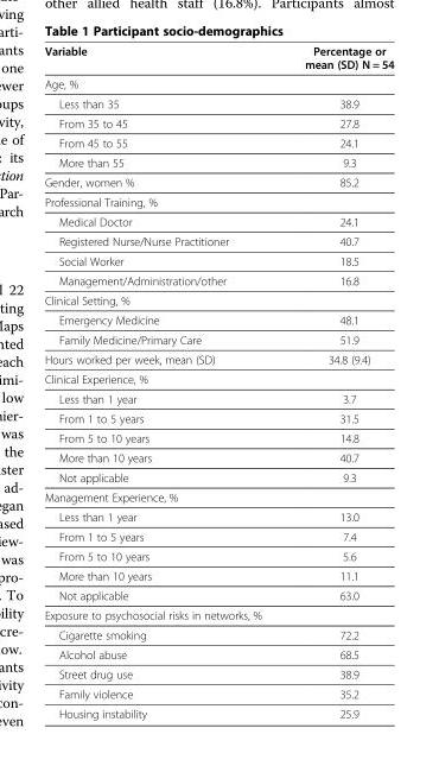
<table><thead><tr><td>Variable</td><td>Percentage or mean (SD) N = 54</td></tr></thead><tbody><tr><td colspan="2">Age, %</td></tr><tr><td>Less than 35</td><td>38.9</td></tr><tr><td>From 35 to 45</td><td>27.8</td></tr><tr><td>From 45 to 55</td><td>24.1</td></tr><tr><td>More than 55</td><td>9.3</td></tr><tr><td>Gender, women %</td><td>85.2</td></tr><tr><td colspan="2">Professional Training, %</td></tr><tr><td>Medical Doctor</td><td>24.1</td></tr><tr><td>Registered Nurse/Nurse Practitioner</td><td>40.7</td></tr><tr><td>Social Worker</td><td>18.5</td></tr><tr><td>Management/Administration/other</td><td>16.8</td></tr><tr><td colspan="2">Clinical Setting, %</td></tr><tr><td>Emergency Medicine</td><td>48.1</td></tr><tr><td>Family Medicine/Primary Care</td><td>51.9</td></tr><tr><td>Hours worked per week, mean (SD)</td><td>34.8 (9.4)</td></tr><tr><td colspan="2">Clinical Experience, %</td></tr><tr><td>Less than 1 year</td><td>3.7</td></tr><tr><td>From 1 to 5 years</td><td>31.5</td></tr><tr><td>From 5 to 10 years</td><td>14.8</td></tr><tr><td>More than 10 years</td><td>40.7</td></tr><tr><td>Not applicable</td><td>9.3</td></tr><tr><td colspan="2">Management Experience, %</td></tr><tr><td>Less than 1 year</td><td>13.0</td></tr><tr><td>From 1 to 5 years</td><td>7.4</td></tr><tr><td>From 5 to 10 years</td><td>5.6</td></tr><tr><td>More than 10 years</td><td>11.1</td></tr><tr><td>Not applicable</td><td>63.0</td></tr><tr><td colspan="2">Exposure to psychosocial risks in networks, %</td></tr><tr><td>Cigarette smoking</td><td>72.2</td></tr><tr><td>Alcohol abuse</td><td>68.5</td></tr><tr><td>Street drug use</td><td>38.9</td></tr><tr><td>Family violence</td><td>35.2</td></tr><tr><td>Housing instability</td><td>25.9</td></tr></tbody></table>